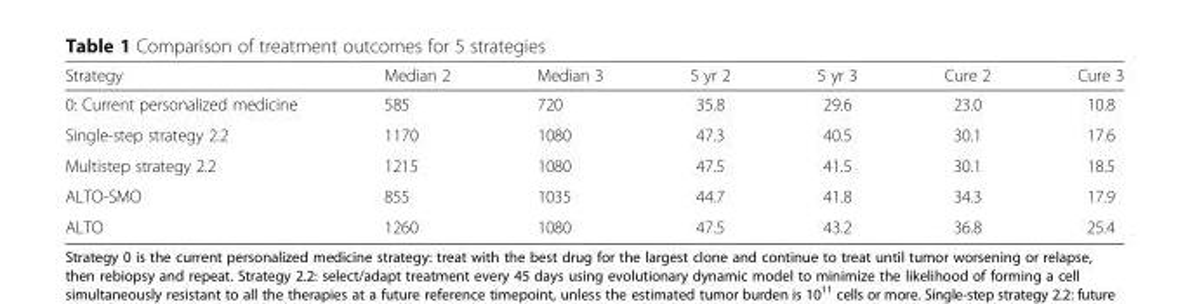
<table><thead><tr><td>Strategy</td><td>Median 2</td><td>Median 3</td><td>5 yr 2</td><td>5 yr 3</td><td>Cure 2</td><td>Cure 3</td></tr></thead><tbody><tr><td>0: Current personalized medicine</td><td>585</td><td>720</td><td>35.8</td><td>29.6</td><td>23.0</td><td>10.8</td></tr><tr><td>Single-step strategy 2.2</td><td>1170</td><td>1080</td><td>47.3</td><td>40.5</td><td>30.1</td><td>17.6</td></tr><tr><td>Multistep strategy 2.2</td><td>1215</td><td>1080</td><td>47.5</td><td>41.5</td><td>30.1</td><td>18.5</td></tr><tr><td>ALTO-SMO</td><td>855</td><td>1035</td><td>44.7</td><td>41.8</td><td>34.3</td><td>17.9</td></tr><tr><td>ALTO</td><td>1260</td><td>1080</td><td>47.5</td><td>43.2</td><td>36.8</td><td>25.4</td></tr></tbody></table>